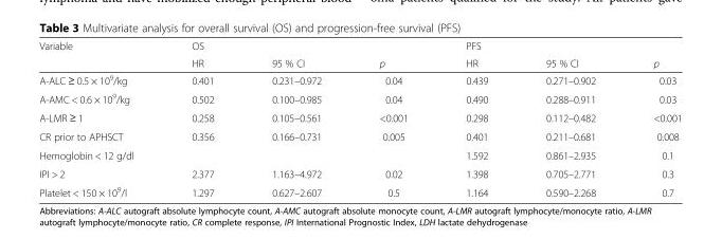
<table><thead><tr><td rowspan="2">Variable</td><td colspan="3">OS</td><td colspan="3">PFS</td></tr><tr><td>HR</td><td>95 % CI</td><td>p</td><td>HR</td><td>95 % CI</td><td>p</td></tr></thead><tbody><tr><td>A-ALC ≥ 0.5 × 10<sup>9</sup>/kg</td><td>0.401</td><td>0.231–0.972</td><td>0.04</td><td>0.439</td><td>0.271–0.902</td><td>0.03</td></tr><tr><td>A-AMC &lt; 0.6 × 10<sup>9</sup>/kg</td><td>0.502</td><td>0.100–0.985</td><td>0.04</td><td>0.490</td><td>0.288–0.911</td><td>0.03</td></tr><tr><td>A-LMR ≥ 1</td><td>0.258</td><td>0.105–0.561</td><td>&lt;0.001</td><td>0.298</td><td>0.112–0.482</td><td>&lt;0.001</td></tr><tr><td>CR prior to APHSCT</td><td>0.356</td><td>0.166–0.731</td><td>0.005</td><td>0.401</td><td>0.211–0.681</td><td>0.008</td></tr><tr><td>Hemoglobin &lt; 12 g/dl</td><td></td><td></td><td></td><td>1.592</td><td>0.861–2.935</td><td>0.1</td></tr><tr><td>IPI &gt; 2</td><td>2.377</td><td>1.163–4.972</td><td>0.02</td><td>1.398</td><td>0.705–2.771</td><td>0.3</td></tr><tr><td>Platelet &lt; 150 × 10<sup>9</sup>/l</td><td>1.297</td><td>0.627–2.607</td><td>0.5</td><td>1.164</td><td>0.590–2.268</td><td>0.7</td></tr></tbody></table>